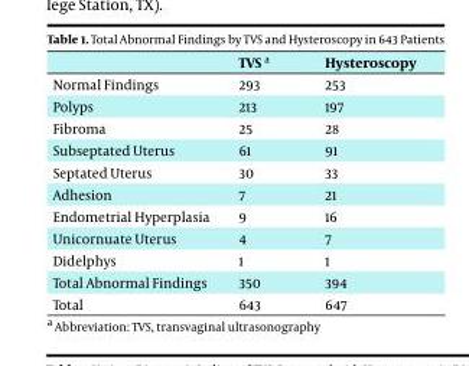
<table><thead><tr><td></td><td>TVs a</td><td>Hysteroscopy</td></tr></thead><tbody><tr><td>Normal Findings</td><td>293</td><td>253</td></tr><tr><td>Polyps</td><td>213</td><td>197</td></tr><tr><td>Fibroma</td><td>25</td><td>28</td></tr><tr><td>Subseptated Uterus</td><td>61</td><td>91</td></tr><tr><td>Septated Uterus</td><td>30</td><td>33</td></tr><tr><td>Adhesion</td><td>7</td><td>21</td></tr><tr><td>Endometrial Hyperplasia</td><td>9</td><td>16</td></tr><tr><td>Unicornuate Uterus</td><td>4</td><td>7</td></tr><tr><td>Didelphys</td><td>1</td><td>1</td></tr><tr><td>Total Abnormal Findings</td><td>350</td><td>394</td></tr><tr><td>Total</td><td>643</td><td>647</td></tr></tbody></table>